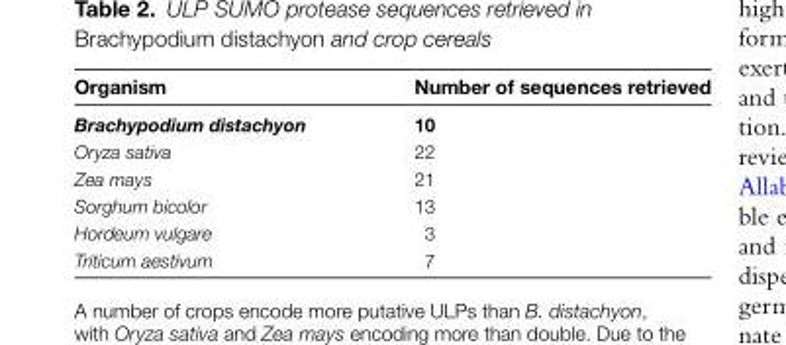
<table><thead><tr><td>Organism</td><td>Number of sequences retrieved</td></tr></thead><tbody><tr><td>Brachypodium distachyon</td><td>10</td></tr><tr><td>Oryza sativa</td><td>22</td></tr><tr><td>Zea mays</td><td>21</td></tr><tr><td>Sorghum bicolor</td><td>13</td></tr><tr><td>Hordeum vulgare</td><td>3</td></tr><tr><td>Triticum aestivum</td><td>7</td></tr></tbody></table>